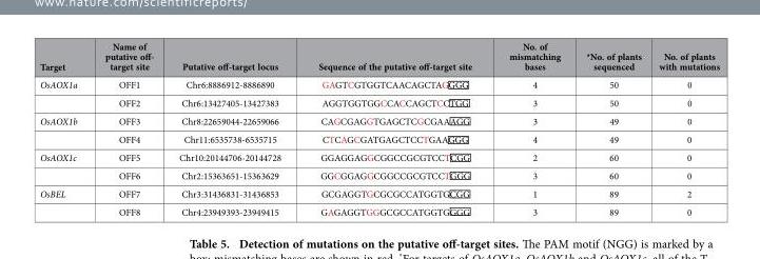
<table><thead><tr><td>Target</td><td>Name of putative off- target site</td><td>Putative off-target locus</td><td>Sequence of the putative off-target site</td><td>No. of mismatching bases</td><td>*No. of plants sequenced</td><td>No. of plants with mutations</td></tr></thead><tbody><tr><td rowspan="2">OsAOX1a</td><td>OFF1</td><td>Chr6:8886912-8886890</td><td>GAGTCGTGGTCAACAGCTAGGGG</td><td>4</td><td>50</td><td>0</td></tr><tr><td>OFF2</td><td>Chr6:13427405-13427383</td><td>AGGTGGTGGCCACCAGCTCCTGG</td><td>3</td><td>50</td><td>0</td></tr><tr><td rowspan="2">OsAOX1b</td><td>OFF3</td><td>Chr8:22659044-22659066</td><td>CAGCGAGGTGAGCTCGCGAAAGG</td><td>3</td><td>49</td><td>0</td></tr><tr><td>OFF4</td><td>Chr11:6535738-6535715</td><td>CTCAGCGATGAGCTCCTGAAGGG</td><td>4</td><td>49</td><td>0</td></tr><tr><td rowspan="2">OsAOX1c</td><td>OFF5</td><td>Chr10:20144706-20144728</td><td>GGAGGAGGCGGCCGCGTCCTCGG</td><td>2</td><td>60</td><td>0</td></tr><tr><td>OFF6</td><td>Chr2:15363651-15363629</td><td>GGCGGAGGCGGCCGCGTCCTGGG</td><td>3</td><td>60</td><td>0</td></tr><tr><td rowspan="2">OsBEL</td><td>OFF7</td><td>Chr3:31436831-31436853</td><td>GCGAGGTGCGCGCCATGGTGCGG</td><td>1</td><td>89</td><td>2</td></tr><tr><td>OFF8</td><td>Chr4:23949393-23949415</td><td>GAGAGGTGGGCGCCATGGTGGGG</td><td>3</td><td>89</td><td>0</td></tr></tbody></table>